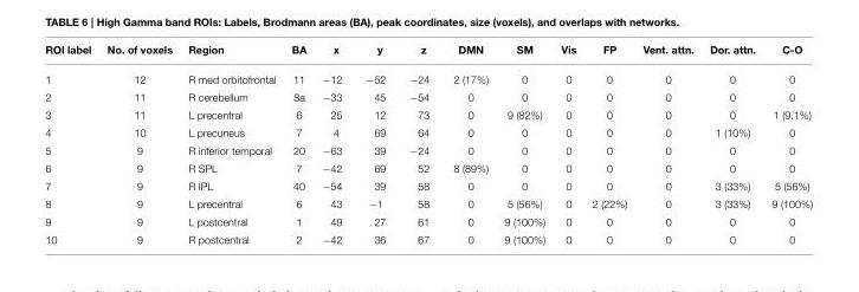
<table><thead><tr><td>ROI label</td><td>No. of voxels</td><td>Region</td><td>BA</td><td>x</td><td>y</td><td>z</td><td>DMN</td><td>SM</td><td>Vis</td><td>FP</td><td>Vent. attn.</td><td>Dor. attn.</td><td>C-O</td></tr></thead><tbody><tr><td>1</td><td>12</td><td>R med orbitofrontal</td><td>11</td><td>−12</td><td>−52</td><td>−24</td><td>2 (17%)</td><td>0</td><td>0</td><td>0</td><td>0</td><td>0</td><td>0</td></tr><tr><td>2</td><td>11</td><td>R cerebellum</td><td>8a</td><td>−33</td><td>45</td><td>−54</td><td>0</td><td>0</td><td>0</td><td>0</td><td>0</td><td>0</td><td>0</td></tr><tr><td>3</td><td>11</td><td>L precentral</td><td>6</td><td>25</td><td>12</td><td>73</td><td>0</td><td>9 (82%)</td><td>0</td><td>0</td><td>0</td><td>0</td><td>1 (9.1%)</td></tr><tr><td>4</td><td>10</td><td>L precuneus</td><td>7</td><td>4</td><td>69</td><td>64</td><td>0</td><td>0</td><td>0</td><td>0</td><td>0</td><td>1 (10%)</td><td>0</td></tr><tr><td>5</td><td>9</td><td>R inferior temporal</td><td>20</td><td>−63</td><td>39</td><td>−24</td><td>0</td><td>0</td><td>0</td><td>0</td><td>0</td><td>0</td><td>0</td></tr><tr><td>6</td><td>9</td><td>R SPL</td><td>7</td><td>−42</td><td>69</td><td>52</td><td>8 (89%)</td><td>0</td><td>0</td><td>0</td><td>0</td><td>0</td><td>0</td></tr><tr><td>7</td><td>9</td><td>R IPL</td><td>40</td><td>−54</td><td>39</td><td>58</td><td>0</td><td>0</td><td>0</td><td>0</td><td>0</td><td>3 (33%)</td><td>5 (56%)</td></tr><tr><td>8</td><td>9</td><td>L precentral</td><td>6</td><td>43</td><td>−1</td><td>58</td><td>0</td><td>5 (56%)</td><td>0</td><td>2 (22%)</td><td>0</td><td>3 (33%)</td><td>9 (100%)</td></tr><tr><td>9</td><td>9</td><td>L postcentral</td><td>1</td><td>49</td><td>27</td><td>61</td><td>0</td><td>9 (100%)</td><td>0</td><td>0</td><td>0</td><td>0</td><td>0</td></tr><tr><td>10</td><td>9</td><td>R postcentral</td><td>2</td><td>−42</td><td>36</td><td>67</td><td>0</td><td>9 (100%)</td><td>0</td><td>0</td><td>0</td><td>0</td><td>0</td></tr></tbody></table>